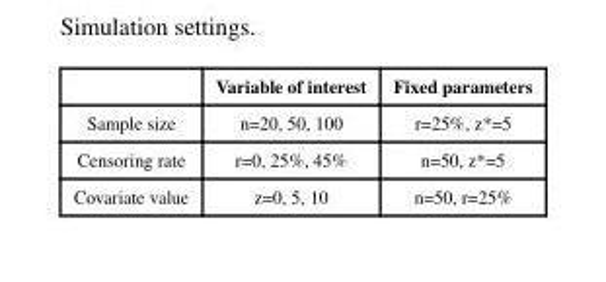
<table><thead><tr><td></td><td>Variable of interest</td><td>Fixed parameters</td></tr></thead><tbody><tr><td>Sample size</td><td>n=20, 50, 100</td><td>r=25%, z*=5</td></tr><tr><td>Censoring rate</td><td>r=0, 25%, 45%</td><td>n=50, z*=5</td></tr><tr><td>Covariate value</td><td>z=0, 5, 10</td><td>n=50, r=25%</td></tr></tbody></table>